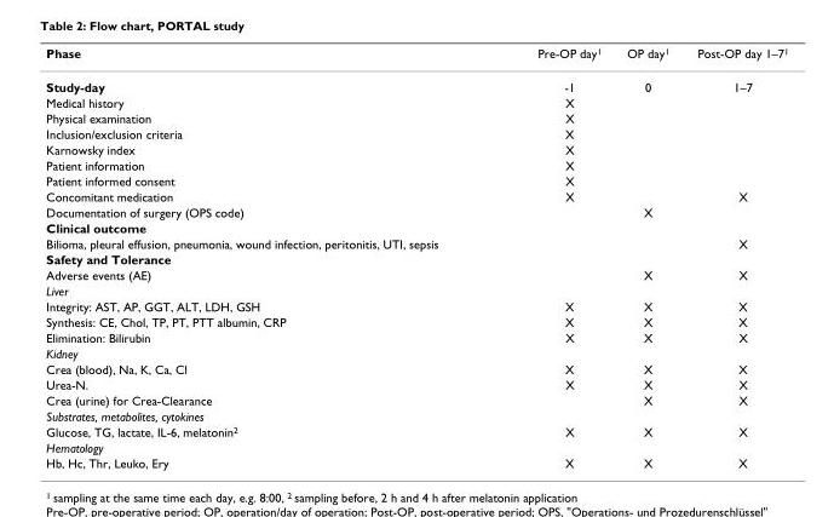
<table><thead><tr><td>Phase</td><td>Pre-OP day<sup>1</sup></td><td>OP day<sup>1</sup></td><td>Post-OP day 1–7<sup>1</sup></td></tr></thead><tbody><tr><td>Study-day</td><td>-1</td><td>0</td><td>1–7</td></tr><tr><td>Medical history</td><td>X</td><td></td><td></td></tr><tr><td>Physical examination</td><td>X</td><td></td><td></td></tr><tr><td>Inclusion/exclusion criteria</td><td>X</td><td></td><td></td></tr><tr><td>Karnowsky index</td><td>X</td><td></td><td></td></tr><tr><td>Patient information</td><td>X</td><td></td><td></td></tr><tr><td>Patient informed consent</td><td>X</td><td></td><td></td></tr><tr><td>Concomitant medication</td><td>X</td><td></td><td>X</td></tr><tr><td>Documentation of surgery (OPS code)</td><td></td><td>X</td><td></td></tr><tr><td colspan="4">Clinical outcome</td></tr><tr><td>Bilioma, pleural effusion, pneumonia, wound infection, peritonitis, UTI, sepsis</td><td></td><td></td><td>X</td></tr><tr><td colspan="4">Safety and Tolerance</td></tr><tr><td>Adverse events (AE)</td><td></td><td>X</td><td>X</td></tr><tr><td colspan="4">Liver</td></tr><tr><td>Integrity: AST, AP, GGT, ALT, LDH, GSH</td><td>X</td><td>X</td><td>X</td></tr><tr><td>Synthesis: CE, Chol, TP, PT, PTT albumin, CRP</td><td>X</td><td>X</td><td>X</td></tr><tr><td>Elimination: Bilirubin</td><td>X</td><td>X</td><td>X</td></tr><tr><td colspan="4">Kidney</td></tr><tr><td>Crea (blood), Na, K, Ca, Cl</td><td>X</td><td>X</td><td>X</td></tr><tr><td>Urea-N.</td><td>X</td><td>X</td><td>X</td></tr><tr><td>Crea (urine) for Crea-Clearance</td><td></td><td>X</td><td>X</td></tr><tr><td colspan="4">Substrates, metabolites, cytokines</td></tr><tr><td>Glucose, TG, lactate, IL-6, melatonin<sup>2</sup></td><td>X</td><td>X</td><td>X</td></tr><tr><td colspan="4">Hematology</td></tr><tr><td>Hb, Hc, Thr, Leuko, Ery</td><td>X</td><td>X</td><td>X</td></tr></tbody></table>